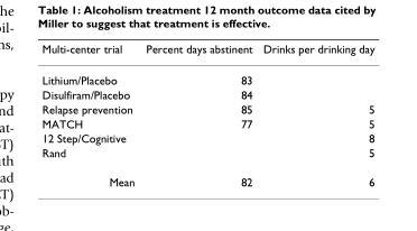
<table><thead><tr><td>Multi-center trial</td><td>Percent days abstinent</td><td>Drinks per drinking day</td></tr></thead><tbody><tr><td>Lithium/Placebo</td><td>83</td><td></td></tr><tr><td>Disulfiram/Placebo</td><td>84</td><td></td></tr><tr><td>Relapse prevention</td><td>85</td><td>5</td></tr><tr><td>MATCH</td><td>77</td><td>5</td></tr><tr><td>12 Step/Cognitive</td><td></td><td>8</td></tr><tr><td>Rand</td><td></td><td>5</td></tr><tr><td>Mean</td><td>82</td><td>6</td></tr></tbody></table>